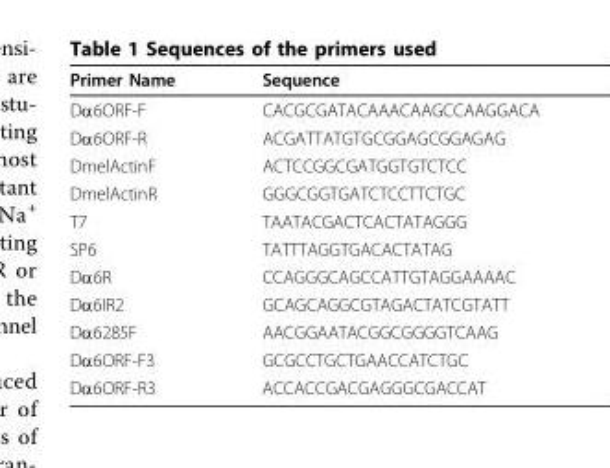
<table><thead><tr><td>Primer Name</td><td>Sequence</td></tr></thead><tbody><tr><td>Dα6ORF-F</td><td>CACGCGATACAAACAAGCCAAGGACA</td></tr><tr><td>Dα6ORF-R</td><td>ACGATTATGTGCGGAGCGGAGAG</td></tr><tr><td>DmelActinF</td><td>ACTCCGGCGATGGTGTCTCC</td></tr><tr><td>DmelActinR</td><td>GGGCGGTGATCTCCTTCTGC</td></tr><tr><td>T7</td><td>TAATACGACTCACTATAGGG</td></tr><tr><td>SP6</td><td>TATTTAGGTGACACTATAG</td></tr><tr><td>Dα6R</td><td>CCAGGGCAGCCATTGTAGGAAAAC</td></tr><tr><td>Dα6IR2</td><td>GCAGCAGGCGTAGACTATCGTATT</td></tr><tr><td>Dα6285F</td><td>AACGGAATACGGCGGGGTCAAG</td></tr><tr><td>Dα6ORF-F3</td><td>GCGCCTGCTGAACCATCTGC</td></tr><tr><td>Dα6ORF-R3</td><td>ACCACCGACGAGGGCGACCAT</td></tr></tbody></table>